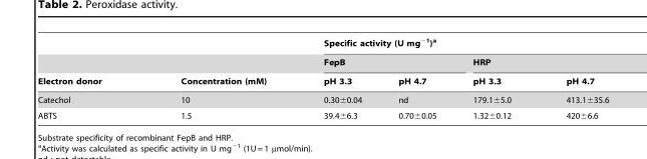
<table><thead><tr><td rowspan="3">Electron donor</td><td rowspan="3">Concentration (mM)</td><td colspan="4">Specific activity (U mg<sup>−1</sup>)<sup>a</sup></td></tr><tr><td colspan="2">FepB</td><td colspan="2">HRP</td></tr><tr><td>pH 3.3</td><td>pH 4.7</td><td>pH 3.3</td><td>pH 4.7</td></tr></thead><tbody><tr><td>Catechol</td><td>10</td><td>0.30±0.04</td><td>nd</td><td>179.1±5.0</td><td>413.1±35.6</td></tr><tr><td>ABTS</td><td>1.5</td><td>39.4±6.3</td><td>0.70±0.05</td><td>1.32±0.12</td><td>420±6.6</td></tr></tbody></table>